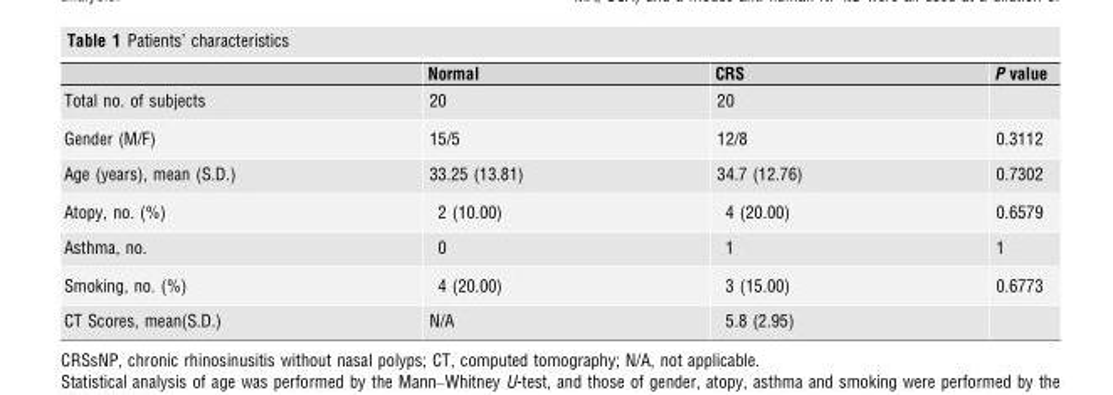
<table><thead><tr><td></td><td>Normal</td><td>CRS</td><td>P value</td></tr></thead><tbody><tr><td>Total no. of subjects</td><td>20</td><td>20</td><td></td></tr><tr><td>Gender (M/F)</td><td>15/5</td><td>12/8</td><td>0.3112</td></tr><tr><td>Age (years), mean (S.D.)</td><td>33.25 (13.81)</td><td>34.7 (12.76)</td><td>0.7302</td></tr><tr><td>Atopy, no. (%)</td><td>2 (10.00)</td><td>4 (20.00)</td><td>0.6579</td></tr><tr><td>Asthma, no.</td><td>0</td><td>1</td><td>1</td></tr><tr><td>Smoking, no. (%)</td><td>4 (20.00)</td><td>3 (15.00)</td><td>0.6773</td></tr><tr><td>CT Scores, mean(S.D.)</td><td>N/A</td><td>5.8 (2.95)</td><td></td></tr></tbody></table>